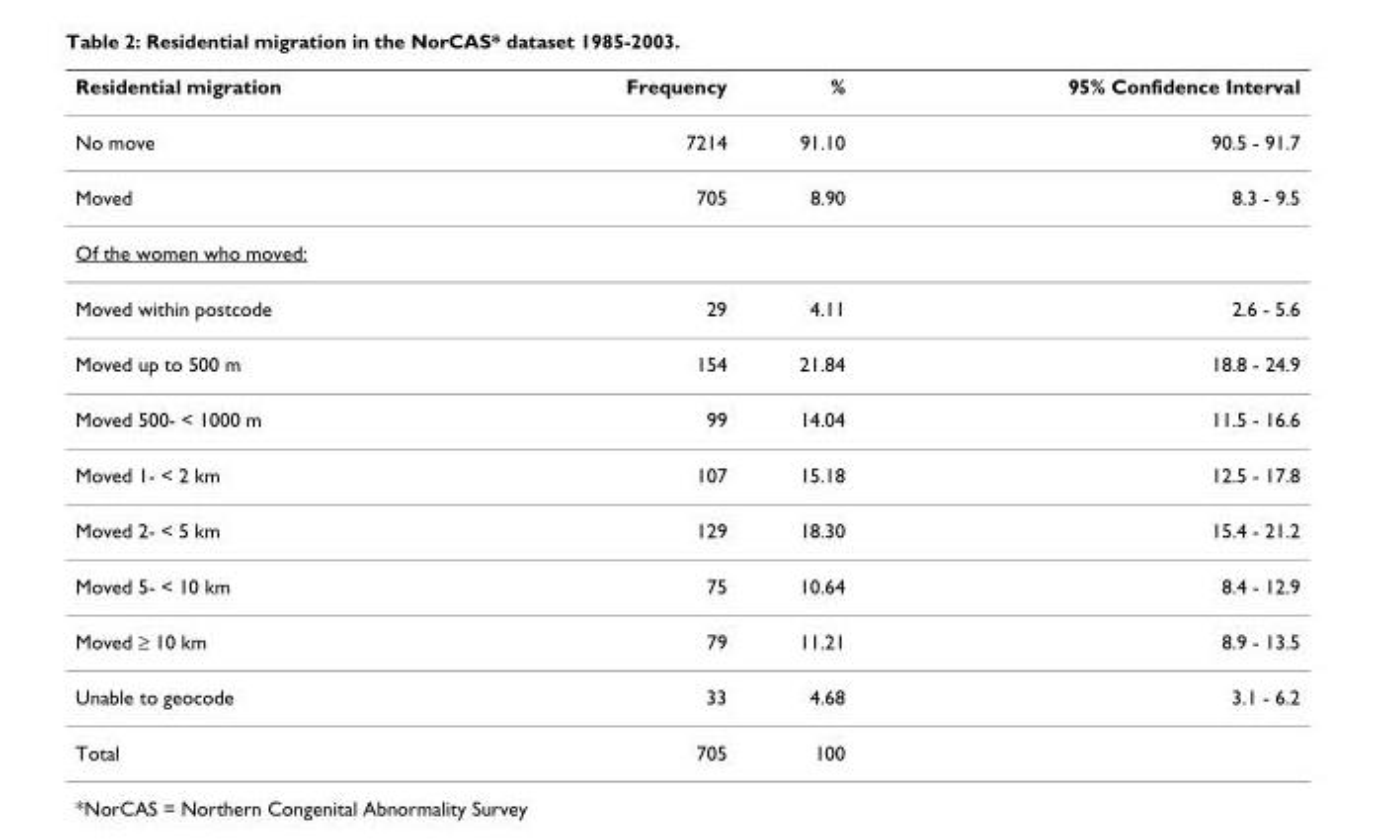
<table><thead><tr><td>Residential migration</td><td>Frequency</td><td>%</td><td>95% Confidence Interval</td></tr></thead><tbody><tr><td>No move</td><td>7214</td><td>91.10</td><td>90.5 - 91.7</td></tr><tr><td>Moved</td><td>705</td><td>8.90</td><td>8.3 - 9.5</td></tr><tr><td colspan="4">Of the women who moved:</td></tr><tr><td>Moved within postcode</td><td>29</td><td>4.11</td><td>2.6 - 5.6</td></tr><tr><td>Moved up to 500 m</td><td>154</td><td>21.84</td><td>18.8 - 24.9</td></tr><tr><td>Moved 500- &lt; 1000 m</td><td>99</td><td>14.04</td><td>11.5 - 16.6</td></tr><tr><td>Moved 1- &lt; 2 km</td><td>107</td><td>15.18</td><td>12.5 - 17.8</td></tr><tr><td>Moved 2- &lt; 5 km</td><td>129</td><td>18.30</td><td>15.4 - 21.2</td></tr><tr><td>Moved 5- &lt; 10 km</td><td>75</td><td>10.64</td><td>8.4 - 12.9</td></tr><tr><td>Moved ≥ 10 km</td><td>79</td><td>11.21</td><td>8.9 - 13.5</td></tr><tr><td>Unable to geocode</td><td>33</td><td>4.68</td><td>3.1 - 6.2</td></tr><tr><td>Total</td><td>705</td><td>100</td><td></td></tr></tbody></table>